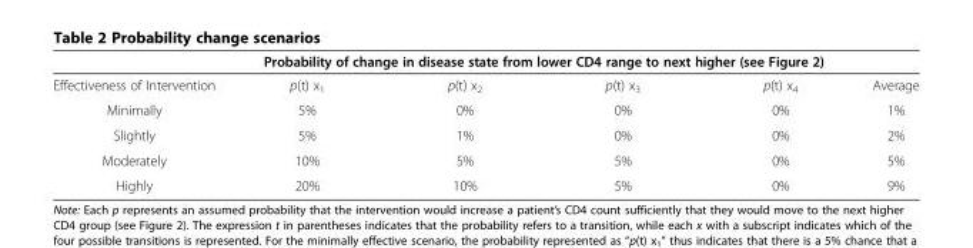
<table><thead><tr><td rowspan="2">Effectiveness of Intervention</td><td colspan="4">Probability of change in disease state from lower CD4 range to next higher (see Figure 2)</td><td rowspan="2">Average</td></tr><tr><td>p(t) x<sub>1</sub></td><td>p(t) x<sub>2</sub></td><td>p(t) x<sub>3</sub></td><td>p(t) x<sub>4</sub></td></tr></thead><tbody><tr><td>Minimally</td><td>5%</td><td>0%</td><td>0%</td><td>0%</td><td>1%</td></tr><tr><td>Slightly</td><td>5%</td><td>1%</td><td>0%</td><td>0%</td><td>2%</td></tr><tr><td>Moderately</td><td>10%</td><td>5%</td><td>5%</td><td>0%</td><td>5%</td></tr><tr><td>Highly</td><td>20%</td><td>10%</td><td>5%</td><td>0%</td><td>9%</td></tr></tbody></table>